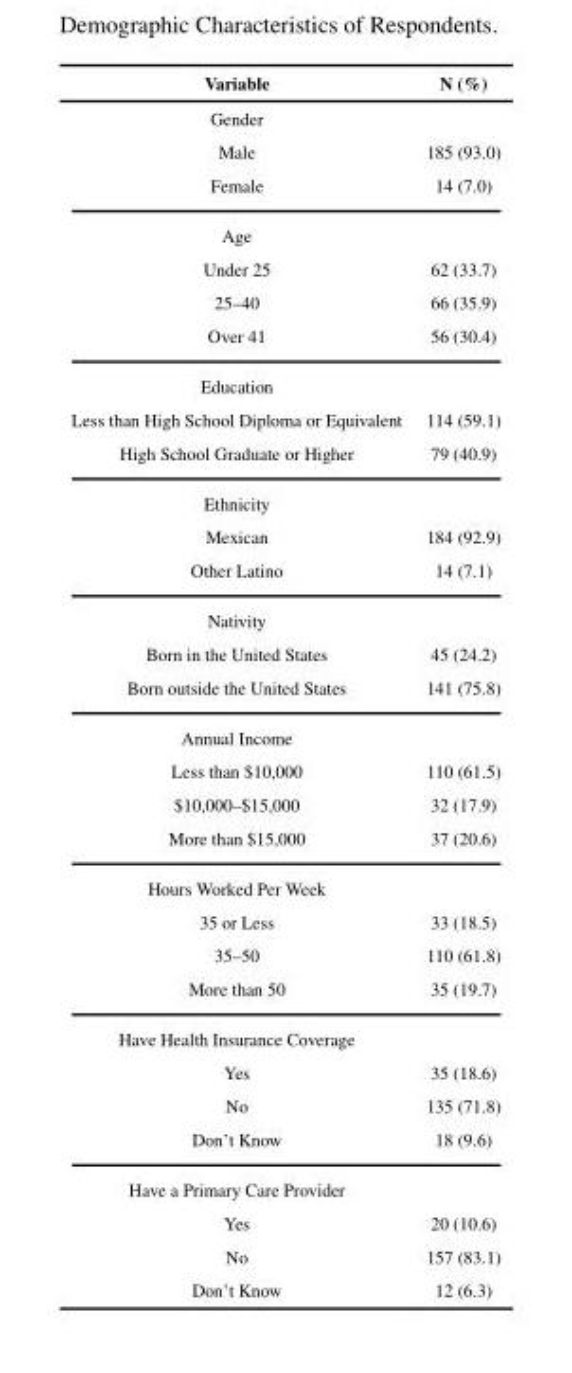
<table><thead><tr><td>Variable</td><td>N (%)</td></tr></thead><tbody><tr><td colspan="2">Gender</td></tr><tr><td>Male</td><td>185 (93.0)</td></tr><tr><td>Female</td><td>14 (7.0)</td></tr><tr><td colspan="2">Age</td></tr><tr><td>Under 25</td><td>62 (33.7)</td></tr><tr><td>25–40</td><td>66 (35.9)</td></tr><tr><td>Over 41</td><td>56 (30.4)</td></tr><tr><td colspan="2">Education</td></tr><tr><td>Less than High School Diploma or Equivalent</td><td>114 (59.1)</td></tr><tr><td>High School Graduate or Higher</td><td>79 (40.9)</td></tr><tr><td colspan="2">Ethnicity</td></tr><tr><td>Mexican</td><td>184 (92.9)</td></tr><tr><td>Other Latino</td><td>14 (7.1)</td></tr><tr><td colspan="2">Nativity</td></tr><tr><td>Born in the United States</td><td>45 (24.2)</td></tr><tr><td>Born outside the United States</td><td>141 (75.8)</td></tr><tr><td colspan="2">Annual Income</td></tr><tr><td>Less than $10,000</td><td>110 (61.5)</td></tr><tr><td>$10,000–$15,000</td><td>32 (17.9)</td></tr><tr><td>More than $15,000</td><td>37 (20.6)</td></tr><tr><td colspan="2">Hours Worked Per Week</td></tr><tr><td>35 or Less</td><td>33 (18.5)</td></tr><tr><td>35–50</td><td>110 (61.8)</td></tr><tr><td>More than 50</td><td>35 (19.7)</td></tr><tr><td colspan="2">Have Health Insurance Coverage</td></tr><tr><td>Yes</td><td>35 (18.6)</td></tr><tr><td>No</td><td>135 (71.8)</td></tr><tr><td>Don’t Know</td><td>18 (9.6)</td></tr><tr><td colspan="2">Have a Primary Care Provider</td></tr><tr><td>Yes</td><td>20 (10.6)</td></tr><tr><td>No</td><td>157 (83.1)</td></tr><tr><td>Don’t Know</td><td>12 (6.3)</td></tr></tbody></table>